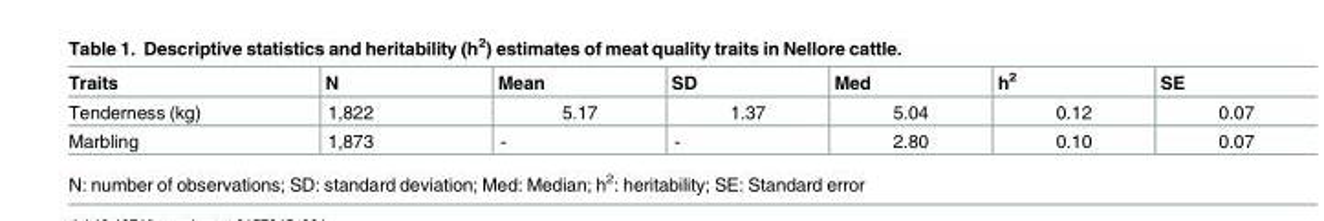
<table><thead><tr><td>Traits</td><td>N</td><td>Mean</td><td>SD</td><td>Med</td><td>h<sup>2</sup></td><td>SE</td></tr></thead><tbody><tr><td>Tenderness (kg)</td><td>1,822</td><td>5.17</td><td>1.37</td><td>5.04</td><td>0.12</td><td>0.07</td></tr><tr><td>Marbling</td><td>1,873</td><td>-</td><td>-</td><td>2.80</td><td>0.10</td><td>0.07</td></tr></tbody></table>